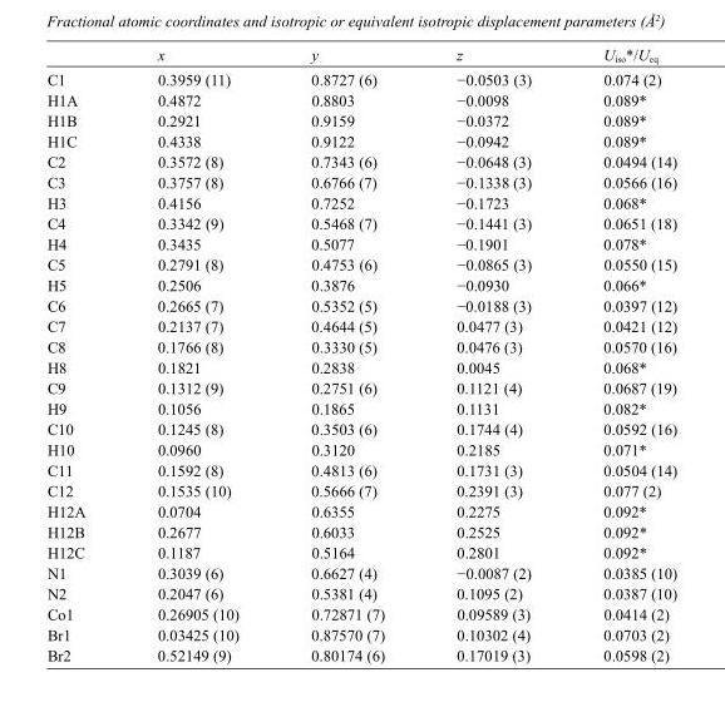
<table><thead><tr><td></td><td>x</td><td>y</td><td>z</td><td>U<sub>iso</sub>*/U<sub>eq</sub></td></tr></thead><tbody><tr><td>C1</td><td>0.3959 (11)</td><td>0.8727 (6)</td><td>−0.0503 (3)</td><td>0.074 (2)</td></tr><tr><td>H1A</td><td>0.4872</td><td>0.8803</td><td>−0.0098</td><td>0.089*</td></tr><tr><td>H1B</td><td>0.2921</td><td>0.9159</td><td>−0.0372</td><td>0.089*</td></tr><tr><td>H1C</td><td>0.4338</td><td>0.9122</td><td>−0.0942</td><td>0.089*</td></tr><tr><td>C2</td><td>0.3572 (8)</td><td>0.7343 (6)</td><td>−0.0648 (3)</td><td>0.0494 (14)</td></tr><tr><td>C3</td><td>0.3757 (8)</td><td>0.6766 (7)</td><td>−0.1338 (3)</td><td>0.0566 (16)</td></tr><tr><td>H3</td><td>0.4156</td><td>0.7252</td><td>−0.1723</td><td>0.068*</td></tr><tr><td>C4</td><td>0.3342 (9)</td><td>0.5468 (7)</td><td>−0.1441 (3)</td><td>0.0651 (18)</td></tr><tr><td>H4</td><td>0.3435</td><td>0.5077</td><td>−0.1901</td><td>0.078*</td></tr><tr><td>C5</td><td>0.2791 (8)</td><td>0.4753 (6)</td><td>−0.0865 (3)</td><td>0.0550 (15)</td></tr><tr><td>H5</td><td>0.2506</td><td>0.3876</td><td>−0.0930</td><td>0.066*</td></tr><tr><td>C6</td><td>0.2665 (7)</td><td>0.5352 (5)</td><td>−0.0188 (3)</td><td>0.0397 (12)</td></tr><tr><td>C7</td><td>0.2137 (7)</td><td>0.4644 (5)</td><td>0.0477 (3)</td><td>0.0421 (12)</td></tr><tr><td>C8</td><td>0.1766 (8)</td><td>0.3330 (5)</td><td>0.0476 (3)</td><td>0.0570 (16)</td></tr><tr><td>H8</td><td>0.1821</td><td>0.2838</td><td>0.0045</td><td>0.068*</td></tr><tr><td>C9</td><td>0.1312 (9)</td><td>0.2751 (6)</td><td>0.1121 (4)</td><td>0.0687 (19)</td></tr><tr><td>H9</td><td>0.1056</td><td>0.1865</td><td>0.1131</td><td>0.082*</td></tr><tr><td>C10</td><td>0.1245 (8)</td><td>0.3503 (6)</td><td>0.1744 (4)</td><td>0.0592 (16)</td></tr><tr><td>H10</td><td>0.0960</td><td>0.3120</td><td>0.2185</td><td>0.071*</td></tr><tr><td>C11</td><td>0.1592 (8)</td><td>0.4813 (6)</td><td>0.1731 (3)</td><td>0.0504 (14)</td></tr><tr><td>C12</td><td>0.1535 (10)</td><td>0.5666 (7)</td><td>0.2391 (3)</td><td>0.077 (2)</td></tr><tr><td>H12A</td><td>0.0704</td><td>0.6355</td><td>0.2275</td><td>0.092*</td></tr><tr><td>H12B</td><td>0.2677</td><td>0.6033</td><td>0.2525</td><td>0.092*</td></tr><tr><td>H12C</td><td>0.1187</td><td>0.5164</td><td>0.2801</td><td>0.092*</td></tr><tr><td>N1</td><td>0.3039 (6)</td><td>0.6627 (4)</td><td>−0.0087 (2)</td><td>0.0385 (10)</td></tr><tr><td>N2</td><td>0.2047 (6)</td><td>0.5381 (4)</td><td>0.1095 (2)</td><td>0.0387 (10)</td></tr><tr><td>Co1</td><td>0.26905 (10)</td><td>0.72871 (7)</td><td>0.09589 (3)</td><td>0.0414 (2)</td></tr><tr><td>Br1</td><td>0.03425 (10)</td><td>0.87570 (7)</td><td>0.10302 (4)</td><td>0.0703 (2)</td></tr><tr><td>Br2</td><td>0.52149 (9)</td><td>0.80174 (6)</td><td>0.17019 (3)</td><td>0.0598 (2)</td></tr></tbody></table>